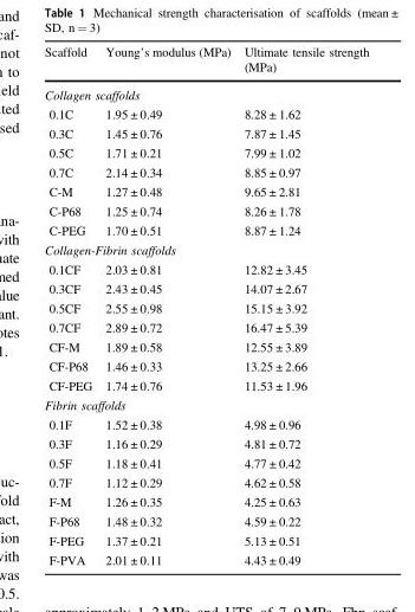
<table><thead><tr><td>Scaffold</td><td>Young’s modulus (MPa)</td><td>Ultimate tensile strength (MPa)</td></tr></thead><tbody><tr><td colspan="3">Collagen scaffolds</td></tr><tr><td>0.1C</td><td>1.95 ± 0.49</td><td>8.28 ± 1.62</td></tr><tr><td>0.3C</td><td>1.45 ± 0.76</td><td>7.87 ± 1.45</td></tr><tr><td>0.5C</td><td>1.71 ± 0.21</td><td>7.99 ± 1.02</td></tr><tr><td>0.7C</td><td>2.14 ± 0.34</td><td>8.85 ± 0.97</td></tr><tr><td>C-M</td><td>1.27 ± 0.48</td><td>9.65 ± 2.81</td></tr><tr><td>C-P68</td><td>1.25 ± 0.74</td><td>8.26 ± 1.78</td></tr><tr><td>C-PEG</td><td>1.70 ± 0.51</td><td>8.87 ± 1.24</td></tr><tr><td colspan="3">Collagen-Fibrin scaffolds</td></tr><tr><td>0.1CF</td><td>2.03 ± 0.81</td><td>12.82 ± 3.45</td></tr><tr><td>0.3CF</td><td>2.43 ± 0.45</td><td>14.07 ± 2.67</td></tr><tr><td>0.5CF</td><td>2.55 ± 0.98</td><td>15.15 ± 3.92</td></tr><tr><td>0.7CF</td><td>2.89 ± 0.72</td><td>16.47 ± 5.39</td></tr><tr><td>CF-M</td><td>1.89 ± 0.58</td><td>12.55 ± 3.89</td></tr><tr><td>CF-P68</td><td>1.46 ± 0.33</td><td>13.25 ± 2.66</td></tr><tr><td>CF-PEG</td><td>1.74 ± 0.76</td><td>11.53 ± 1.96</td></tr><tr><td colspan="3">Fibrin scaffolds</td></tr><tr><td>0.1F</td><td>1.52 ± 0.38</td><td>4.98 ± 0.96</td></tr><tr><td>0.3F</td><td>1.16 ± 0.29</td><td>4.81 ± 0.72</td></tr><tr><td>0.5F</td><td>1.18 ± 0.41</td><td>4.77 ± 0.42</td></tr><tr><td>0.7F</td><td>1.12 ± 0.29</td><td>4.62 ± 0.58</td></tr><tr><td>F-M</td><td>1.26 ± 0.35</td><td>4.25 ± 0.63</td></tr><tr><td>F-P68</td><td>1.48 ± 0.32</td><td>4.59 ± 0.22</td></tr><tr><td>F-PEG</td><td>1.37 ± 0.21</td><td>5.13 ± 0.51</td></tr><tr><td>F-PVA</td><td>2.01 ± 0.11</td><td>4.43 ± 0.49</td></tr></tbody></table>